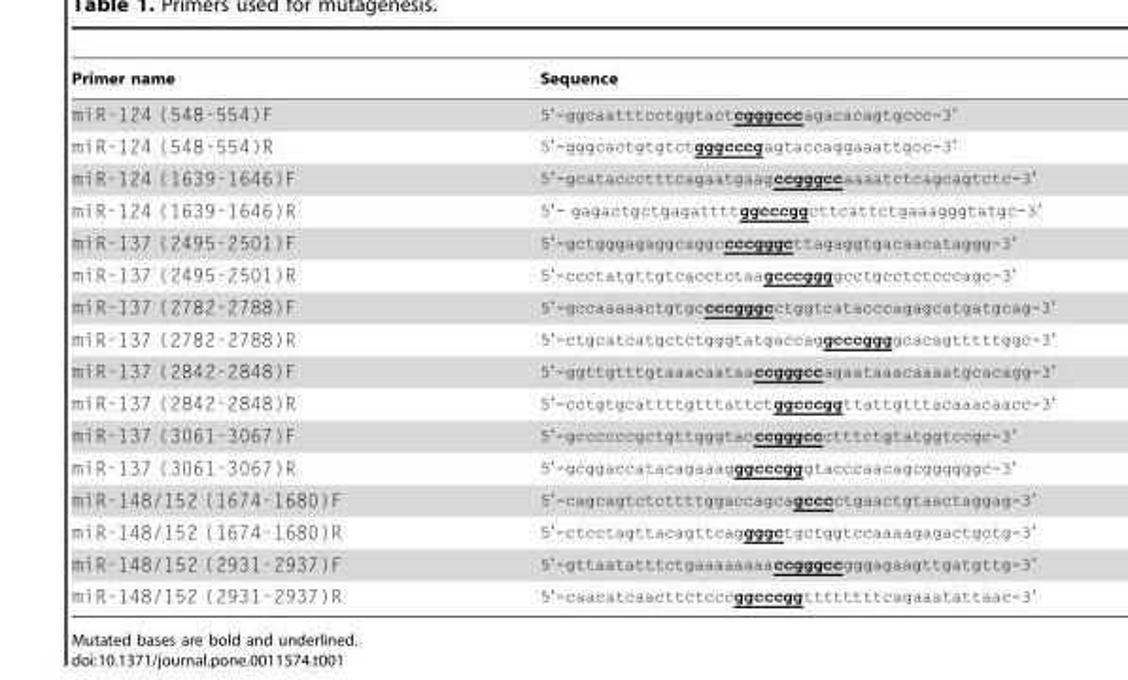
<table><thead><tr><td>Primer name</td><td>Sequence</td></tr></thead><tbody><tr><td>miR-124 (548-554)F</td><td>5′-ggcaatttcctggtactcgggcccagacacagtgccc-3′</td></tr><tr><td>miR-124 (548-554)R</td><td>5′-gggcactgtgtctgggcccgagtaccaggaaattgcc-3′</td></tr><tr><td>miR-124 (1639-1646)F</td><td>5′-gcataccctttcagaatgaagccgggccaaaatctcagcagtctc-3′</td></tr><tr><td>miR-124 (1639-1646)R</td><td>5′- gagactgctgagattttggcccggcttcattctgaaagggtatgc-3′</td></tr><tr><td>miR-137 (2495-2501)F</td><td>5′-gctgggagaggcaggccccgggcttagaggtgacaacataggg-3′</td></tr><tr><td>miR-137 (2495-2501)R</td><td>5′-ccctatgttgtcacctctaagcccggggcctgcctctcccagc-3′</td></tr><tr><td>miR-137 (2782-2788)F</td><td>5′-gccaaaaactgtgccccgggcctggtcatacccagagcatgatgcag-3′</td></tr><tr><td>miR-137 (2782-2788)R</td><td>5′-ctgcatcatgctctgggtatgaccaggcccggggcacagtttttggc-3′</td></tr><tr><td>miR-137 (2842-2848)F</td><td>5′-ggttgtttgtaaacaataaccgggccagaataaacaaaatgcacagg-3′</td></tr><tr><td>miR-137 (2842-2848)R</td><td>5′-cctgtgcattttgtttattctggcccggttattgtttacaaacaacc-3′</td></tr><tr><td>miR-137 (3061-3067)F</td><td>5′-gccccccgctgttgggtacccgggccctttctgtatggtccgc-3′</td></tr><tr><td>miR-137 (3061-3067)R</td><td>5′-gcggaccatacagaaagggcccgggtacccaacagcggggggc-3′</td></tr><tr><td>miR-148/152 (1674-1680)F</td><td>5′-cagcagtctcttttggaccagcagcccctgaactgtaactaggag-3′</td></tr><tr><td>miR-148/152 (1674-1680)R</td><td>5′-ctcctagttacagttcaggggctgctggtccaaaagagactgctg-3′</td></tr><tr><td>miR-148/152 (2931-2937)F</td><td>5′-gttaatatttctgaaaaaaaaccgggccgggagaagttgatgttg-3′</td></tr><tr><td>miR-148/152 (2931-2937)R</td><td>5′-caacatcaacttctcccggcccggttttttttcagaaatattaac-3′</td></tr></tbody></table>